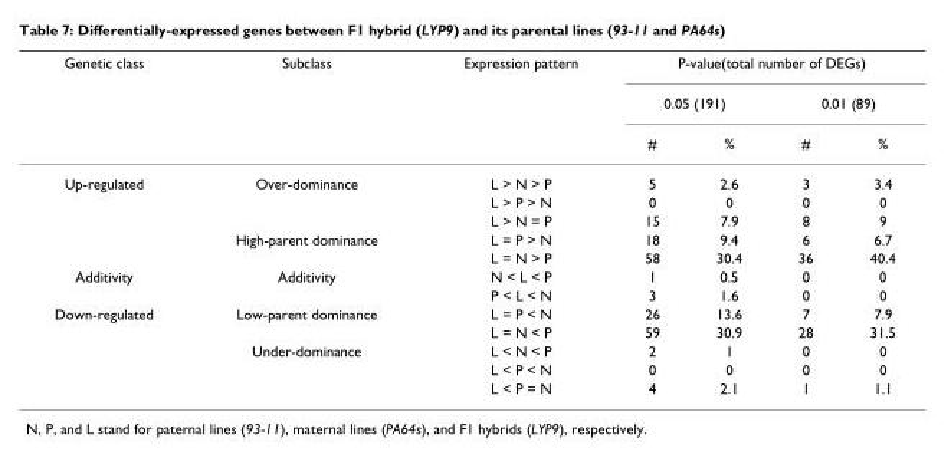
<table><thead><tr><td rowspan="3">Genetic class</td><td rowspan="3">Subclass</td><td rowspan="3">Expression pattern</td><td colspan="4">P-value(total number of DEGs)</td></tr><tr><td colspan="2">0.05 (191)</td><td colspan="2">0.01 (89)</td></tr><tr><td>#</td><td>%</td><td>#</td><td>%</td></tr></thead><tbody><tr><td rowspan="5">Up-regulated</td><td>Over-dominance</td><td>L &gt; N &gt; P</td><td>5</td><td>2.6</td><td>3</td><td>3.4</td></tr><tr><td></td><td>L &gt; P &gt; N</td><td>0</td><td>0</td><td>0</td><td>0</td></tr><tr><td></td><td>L &gt; N = P</td><td>15</td><td>7.9</td><td>8</td><td>9</td></tr><tr><td>High-parent dominance</td><td>L = P &gt; N</td><td>18</td><td>9.4</td><td>6</td><td>6.7</td></tr><tr><td></td><td>L = N &gt; P</td><td>58</td><td>30.4</td><td>36</td><td>40.4</td></tr><tr><td rowspan="2">Additivity</td><td>Additivity</td><td>N &lt; L &lt; P</td><td>1</td><td>0.5</td><td>0</td><td>0</td></tr><tr><td></td><td>P &lt; L &lt; N</td><td>3</td><td>1.6</td><td>0</td><td>0</td></tr><tr><td rowspan="5">Down-regulated</td><td>Low-parent dominance</td><td>L = P &lt; N</td><td>26</td><td>13.6</td><td>7</td><td>7.9</td></tr><tr><td></td><td>L = N &lt; P</td><td>59</td><td>30.9</td><td>28</td><td>31.5</td></tr><tr><td>Under-dominance</td><td>L &lt; N &lt; P</td><td>2</td><td>1</td><td>0</td><td>0</td></tr><tr><td></td><td>L &lt; P &lt; N</td><td>0</td><td>0</td><td>0</td><td>0</td></tr><tr><td></td><td>L &lt; P = N</td><td>4</td><td>2.1</td><td>1</td><td>1.1</td></tr></tbody></table>